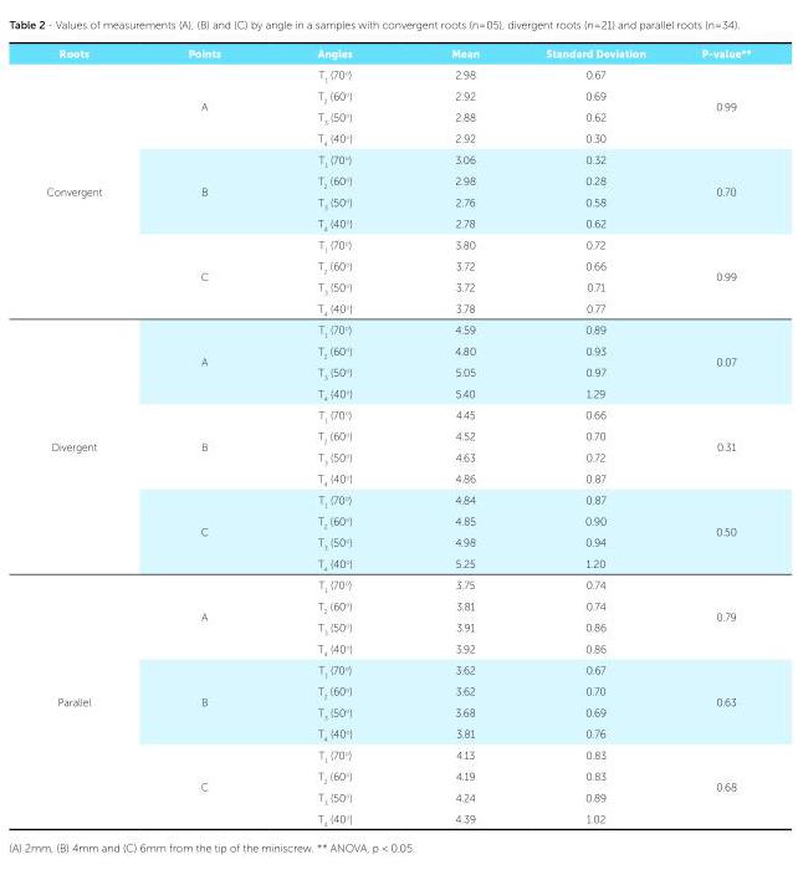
<table><tbody><tr><td>Roots</td><td>Points</td><td>Angles</td><td>Mean</td><td>Standard Deviation</td><td>P-value**</td></tr><tr><td rowspan="12">Convergent</td><td rowspan="4">A</td><td>T<sub>1</sub> (70<sup>o</sup>)</td><td>2.98</td><td>0.67</td><td rowspan="4">0.99</td></tr><tr><td>T<sub>2</sub> (60<sup>o</sup>)</td><td>2.92</td><td>0.69</td></tr><tr><td>T<sub>3</sub> (50<sup>o</sup>)</td><td>2.88</td><td>0.62</td></tr><tr><td>T<sub>4</sub> (40<sup>o</sup>)</td><td>2.92</td><td>0.30</td></tr><tr><td rowspan="4">B</td><td>T<sub>1</sub> (70<sup>o</sup>)</td><td>3.06</td><td>0.32</td><td rowspan="4">0.70</td></tr><tr><td>T<sub>2</sub> (60<sup>o</sup>)</td><td>2.98</td><td>0.28</td></tr><tr><td>T<sub>3</sub> (50<sup>o</sup>)</td><td>2.76</td><td>0.58</td></tr><tr><td>T<sub>4</sub> (40<sup>o</sup>)</td><td>2.78</td><td>0.62</td></tr><tr><td rowspan="4">C</td><td>T<sub>1</sub> (70<sup>o</sup>)</td><td>3.80</td><td>0.72</td><td rowspan="4">0.99</td></tr><tr><td>T<sub>2</sub> (60<sup>o</sup>)</td><td>3.72</td><td>0.66</td></tr><tr><td>T<sub>3</sub> (50<sup>o</sup>)</td><td>3.72</td><td>0.71</td></tr><tr><td>T<sub>4</sub> (40<sup>o</sup>)</td><td>3.78</td><td>0.77</td></tr><tr><td rowspan="12">Divergent</td><td rowspan="4">A</td><td>T<sub>1</sub> (70<sup>o</sup>)</td><td>4.59</td><td>0.89</td><td rowspan="4">0.07</td></tr><tr><td>T<sub>2</sub> (60<sup>o</sup>)</td><td>4.80</td><td>0.93</td></tr><tr><td>T<sub>3</sub> (50<sup>o</sup>)</td><td>5.05</td><td>0.97</td></tr><tr><td>T<sub>4</sub> (40<sup>o</sup>)</td><td>5.40</td><td>1.29</td></tr><tr><td rowspan="4">B</td><td>T<sub>1</sub> (70<sup>o</sup>)</td><td>4.45</td><td>0.66</td><td rowspan="4">0.31</td></tr><tr><td>T<sub>2</sub> (60<sup>o</sup>)</td><td>4.52</td><td>0.70</td></tr><tr><td>T<sub>3</sub> (50<sup>o</sup>)</td><td>4.63</td><td>0.72</td></tr><tr><td>T<sub>4</sub> (40<sup>o</sup>)</td><td>4.86</td><td>0.87</td></tr><tr><td rowspan="4">C</td><td>T<sub>1</sub> (70<sup>o</sup>)</td><td>4.84</td><td>0.87</td><td rowspan="4">0.50</td></tr><tr><td>T<sub>2</sub> (60<sup>o</sup>)</td><td>4.85</td><td>0.90</td></tr><tr><td>T<sub>3</sub> (50<sup>o</sup>)</td><td>4.98</td><td>0.94</td></tr><tr><td>T<sub>4</sub> (40<sup>o</sup>)</td><td>5.25</td><td>1.20</td></tr><tr><td rowspan="12">Parallel</td><td rowspan="4">A</td><td>T<sub>1</sub> (70<sup>o</sup>)</td><td>3.75</td><td>0.74</td><td rowspan="4">0.79</td></tr><tr><td>T<sub>2</sub> (60<sup>o</sup>)</td><td>3.81</td><td>0.74</td></tr><tr><td>T<sub>3</sub> (50<sup>o</sup>)</td><td>3.91</td><td>0.86</td></tr><tr><td>T<sub>4</sub> (40<sup>o</sup>)</td><td>3.92</td><td>0.86</td></tr><tr><td rowspan="4">B</td><td>T<sub>1</sub> (70<sup>o</sup>)</td><td>3.62</td><td>0.67</td><td rowspan="4">0.63</td></tr><tr><td>T<sub>2</sub> (60<sup>o</sup>)</td><td>3.62</td><td>0.70</td></tr><tr><td>T<sub>3</sub> (50<sup>o</sup>)</td><td>3.68</td><td>0.69</td></tr><tr><td>T<sub>4</sub> (40<sup>o</sup>)</td><td>3.81</td><td>0.76</td></tr><tr><td rowspan="4">C</td><td>T<sub>1</sub> (70<sup>o</sup>)</td><td>4.13</td><td>0.83</td><td rowspan="4">0.68</td></tr><tr><td>T<sub>2</sub> (60<sup>o</sup>)</td><td>4.19</td><td>0.83</td></tr><tr><td>T<sub>3</sub> (50<sup>o</sup>)</td><td>4.24</td><td>0.89</td></tr><tr><td>T<sub>4</sub> (40<sup>o</sup>)</td><td>4.39</td><td>1.02</td></tr></tbody></table>